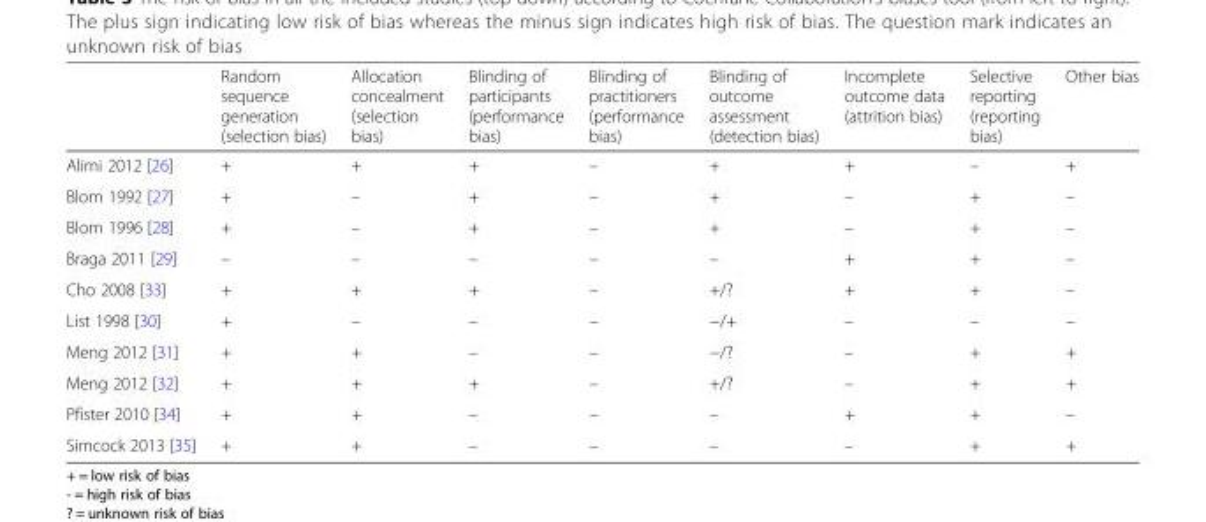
<table><thead><tr><td></td><td>Random sequence generation (selection bias)</td><td>Allocation concealment (selection bias)</td><td>Blinding of participants (performance bias)</td><td>Blinding of practitioners (performance bias)</td><td>Blinding of outcome assessment (detection bias)</td><td>Incomplete outcome data (attrition bias)</td><td>Selective reporting (reporting bias)</td><td>Other bias</td></tr></thead><tbody><tr><td>Alimi 2012 [26]</td><td>+</td><td>+</td><td>+</td><td>–</td><td>+</td><td>+</td><td>–</td><td>+</td></tr><tr><td>Blom 1992 [27]</td><td>+</td><td>–</td><td>+</td><td>–</td><td>+</td><td>–</td><td>+</td><td>–</td></tr><tr><td>Blom 1996 [28]</td><td>+</td><td>–</td><td>+</td><td>–</td><td>+</td><td>–</td><td>+</td><td>–</td></tr><tr><td>Braga 2011 [29]</td><td>–</td><td>–</td><td>–</td><td>–</td><td>–</td><td>+</td><td>+</td><td>–</td></tr><tr><td>Cho 2008 [33]</td><td>+</td><td>+</td><td>+</td><td>–</td><td>+/?</td><td>+</td><td>+</td><td>–</td></tr><tr><td>List 1998 [30]</td><td>+</td><td>–</td><td>–</td><td>–</td><td>−/+</td><td>–</td><td>–</td><td>–</td></tr><tr><td>Meng 2012 [31]</td><td>+</td><td>+</td><td>–</td><td>–</td><td>−/?</td><td>–</td><td>+</td><td>+</td></tr><tr><td>Meng 2012 [32]</td><td>+</td><td>+</td><td>+</td><td>–</td><td>+/?</td><td>–</td><td>+</td><td>+</td></tr><tr><td>Pfister 2010 [34]</td><td>+</td><td>+</td><td>–</td><td>–</td><td>–</td><td>+</td><td>+</td><td>–</td></tr><tr><td>Simcock 2013 [35]</td><td>+</td><td>+</td><td>–</td><td>–</td><td>–</td><td>–</td><td>+</td><td>+</td></tr></tbody></table>